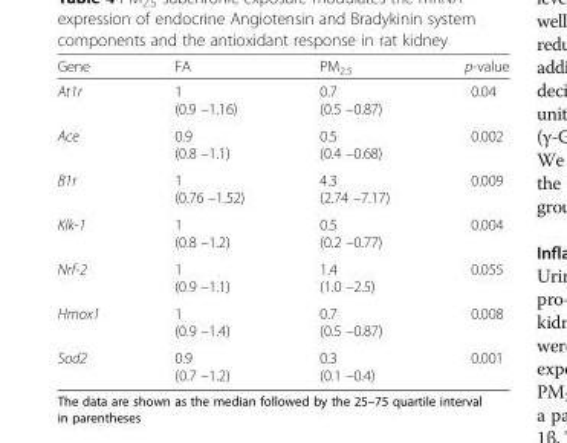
<table><thead><tr><td>Gene</td><td>FA</td><td>PM<sub>2.5</sub></td><td>p-value</td></tr></thead><tbody><tr><td>At1r</td><td>1 (0.9 –1.16)</td><td>0.7 (0.5 –0.87)</td><td>0.04</td></tr><tr><td>Ace</td><td>0.9 (0.8 –1.1)</td><td>0.5 (0.4 –0.68)</td><td>0.002</td></tr><tr><td>B1r</td><td>1 (0.76 –1.52)</td><td>4.3 (2.74 –7.17)</td><td>0.009</td></tr><tr><td>Klk-1</td><td>1 (0.8 –1.2)</td><td>0.5 (0.2 –0.77)</td><td>0.004</td></tr><tr><td>Nrf-2</td><td>1 (0.9 –1.1)</td><td>1.4 (1.0 –2.5)</td><td>0.055</td></tr><tr><td>Hmox1</td><td>1 (0.9 –1.4)</td><td>0.7 (0.5 –0.87)</td><td>0.008</td></tr><tr><td>Sod2</td><td>0.9 (0.7 –1.2)</td><td>0.3 (0.1 –0.4)</td><td>0.001</td></tr></tbody></table>